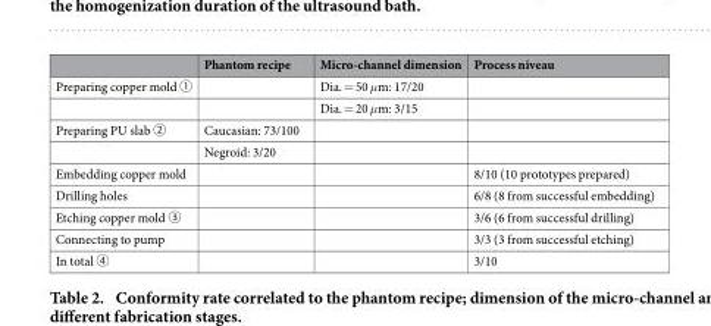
<table><thead><tr><td></td><td>Phantom recipe</td><td>Micro-channel dimension</td><td>Process niveau</td></tr></thead><tbody><tr><td rowspan="2">Preparing copper mold ①</td><td></td><td>Dia. = 50 μm: 17/20</td><td></td></tr><tr><td></td><td>Dia. = 20 μm: 3/15</td><td></td></tr><tr><td rowspan="2">Preparing PU slab ②</td><td>Caucasian: 73/100</td><td></td><td></td></tr><tr><td>Negroid: 3/20</td><td></td><td></td></tr><tr><td>Embedding copper mold</td><td></td><td></td><td>8/10 (10 prototypes prepared)</td></tr><tr><td>Drilling holes</td><td></td><td></td><td>6/8 (8 from successful embedding)</td></tr><tr><td>Etching copper mold ③</td><td></td><td></td><td>3/6 (6 from successful drilling)</td></tr><tr><td>Connecting to pump</td><td></td><td></td><td>3/3 (3 from successful etching)</td></tr><tr><td>In total ④</td><td></td><td></td><td>3/10</td></tr></tbody></table>